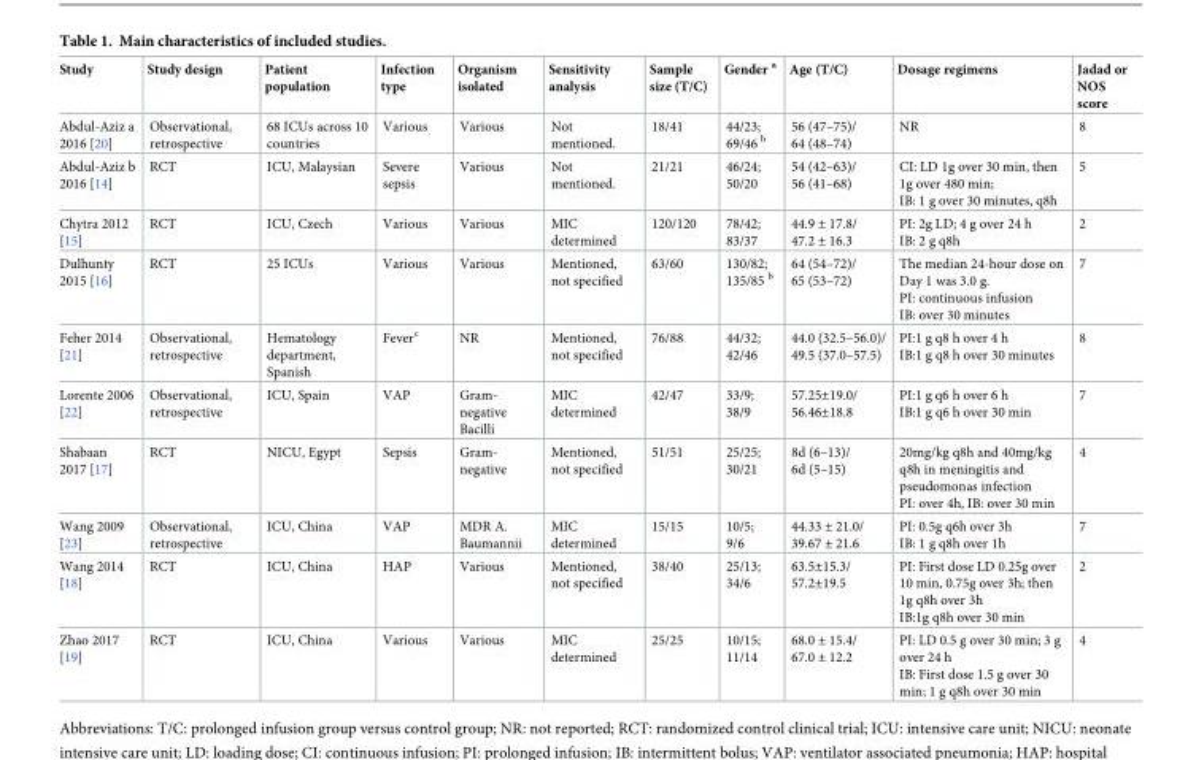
<table><thead><tr><td>Study</td><td>Study design</td><td>Patient population</td><td>Infection type</td><td>Organism isolated</td><td>Sensitivity analysis</td><td>Sample size (T/C)</td><td>Gender <sup>a</sup></td><td>Age (T/C)</td><td>Dosage regimens</td><td>Jadad or NOS score</td></tr></thead><tbody><tr><td>Abdul-Aziz a 2016 [20]</td><td>Observational, retrospective</td><td>68 ICUs across 10 countries</td><td>Various</td><td>Various</td><td>Not mentioned.</td><td>18/41</td><td>44/23; 69/46 <sup>b</sup></td><td>56 (47–75)/ 64 (48–74)</td><td>NR</td><td>8</td></tr><tr><td>Abdul-Aziz b 2016 [14]</td><td>RCT</td><td>ICU, Malaysian</td><td>Severe sepsis</td><td>Various</td><td>Not mentioned.</td><td>21/21</td><td>46/24; 50/20</td><td>54 (42–63)/ 56 (41–68)</td><td>CI: LD 1g over 30 min, then 1g over 480 min; IB: 1 g over 30 minutes, q8h</td><td>5</td></tr><tr><td>Chytra 2012 [15]</td><td>RCT</td><td>ICU, Czech</td><td>Various</td><td>Various</td><td>MIC determined</td><td>120/120</td><td>78/42; 83/37</td><td>44.9 ± 17.8/ 47.2 ± 16.3</td><td>PI: 2g LD; 4 g over 24 h IB: 2 g q8h</td><td>2</td></tr><tr><td>Dulhunty 2015 [16]</td><td>RCT</td><td>25 ICUs</td><td>Various</td><td>Various</td><td>Mentioned, not specified</td><td>63/60</td><td>130/82; 135/85 <sup>b</sup></td><td>64 (54–72)/ 65 (53–72)</td><td>The median 24-hour dose on Day 1 was 3.0 g. PI: continuous infusion IB: over 30 minutes</td><td>7</td></tr><tr><td>Feher 2014 [21]</td><td>Observational, retrospective</td><td>Hematology department, Spanish</td><td>Fever<sup>c</sup></td><td>NR</td><td>Mentioned, not specified</td><td>76/88</td><td>44/32; 42/46</td><td>44.0 (32.5–56.0)/ 49.5 (37.0–57.5)</td><td>PI:1 g q8 h over 4 h IB:1 g q8 h over 30 minutes</td><td>8</td></tr><tr><td>Lorente 2006 [22]</td><td>Observational, retrospective</td><td>ICU, Spain</td><td>VAP</td><td>Gram- negative Bacilli</td><td>MIC determined</td><td>42/47</td><td>33/9; 38/9</td><td>57.25±19.0/ 56.46±18.8</td><td>PI:1 g q6 h over 6 h IB:1 g q6 h over 30 min</td><td>7</td></tr><tr><td>Shabaan 2017 [17]</td><td>RCT</td><td>NICU, Egypt</td><td>Sepsis</td><td>Gram- negative</td><td>Mentioned, not specified</td><td>51/51</td><td>25/25; 30/21</td><td>8d (6–13)/ 6d (5–15)</td><td>20mg/kg q8h and 40mg/kg q8h in meningitis and pseudomonas infection PI: over 4h, IB: over 30 min</td><td>4</td></tr><tr><td>Wang 2009 [23]</td><td>Observational, retrospective</td><td>ICU, China</td><td>VAP</td><td>MDR A. Baumannii</td><td>MIC determined</td><td>15/15</td><td>10/5; 9/6</td><td>44.33 ± 21.0/ 39.67 ± 21.6</td><td>PI: 0.5g q6h over 3h IB: 1 g q8h over 1h</td><td>7</td></tr><tr><td>Wang 2014 [18]</td><td>RCT</td><td>ICU, China</td><td>HAP</td><td>Various</td><td>Mentioned, not specified</td><td>38/40</td><td>25/13; 34/6</td><td>63.5±15.3/ 57.2±19.5</td><td>PI: First dose LD 0.25g over 10 min, 0.75g over 3h; then 1g q8h over 3h IB:1g q8h over 30 min</td><td>2</td></tr><tr><td>Zhao 2017 [19]</td><td>RCT</td><td>ICU, China</td><td>Various</td><td>Various</td><td>MIC determined</td><td>25/25</td><td>10/15; 11/14</td><td>68.0 ± 15.4/ 67.0 ± 12.2</td><td>PI: LD 0.5 g over 30 min; 3 g over 24 h IB: First dose 1.5 g over 30 min; 1 g q8h over 30 min</td><td>4</td></tr></tbody></table>